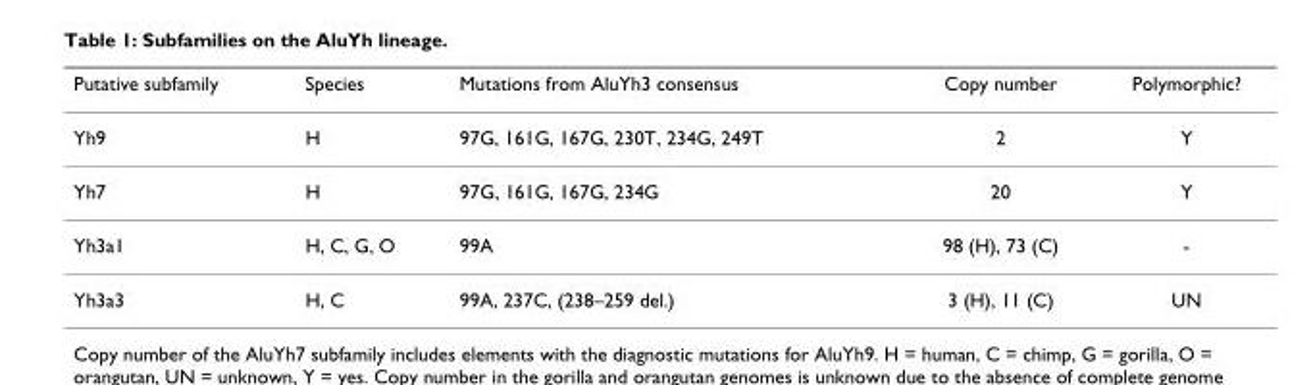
<table><thead><tr><td>Putative subfamily</td><td>Species</td><td>Mutations from AluYh3 consensus</td><td>Copy number</td><td>Polymorphic?</td></tr></thead><tbody><tr><td>Yh9</td><td>H</td><td>97G, 161G, 167G, 230T, 234G, 249T</td><td>2</td><td>Y</td></tr><tr><td>Yh7</td><td>H</td><td>97G, 161G, 167G, 234G</td><td>20</td><td>Y</td></tr><tr><td>Yh3a1</td><td>H, C, G, O</td><td>99A</td><td>98 (H), 73 (C)</td><td>-</td></tr><tr><td>Yh3a3</td><td>H, C</td><td>99A, 237C, (238–259 del.)</td><td>3 (H), 11 (C)</td><td>UN</td></tr></tbody></table>